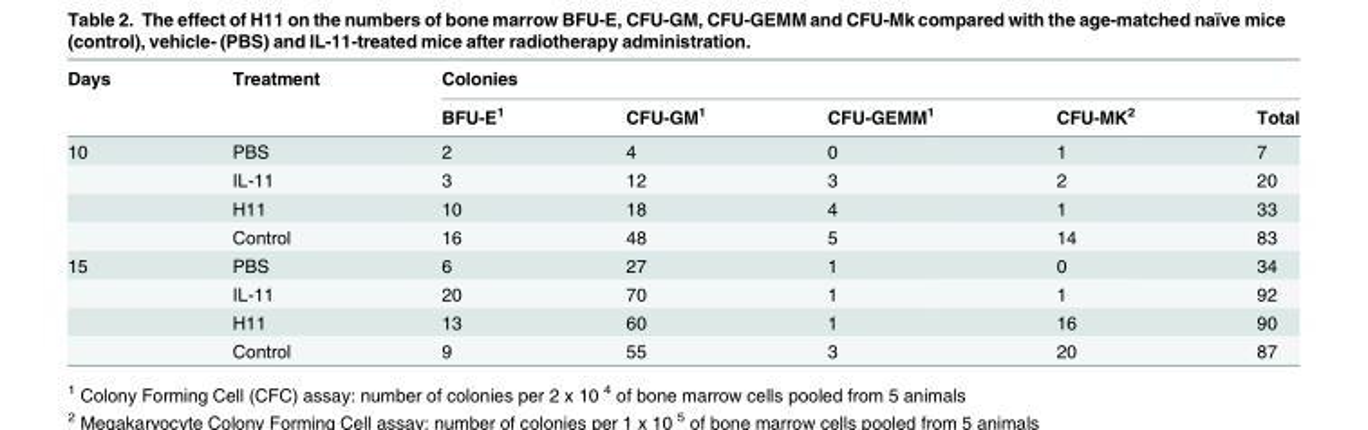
<table><thead><tr><td rowspan="2">Days</td><td rowspan="2">Treatment</td><td colspan="5">Colonies</td></tr><tr><td>BFU-E<sup>1</sup></td><td>CFU-GM<sup>1</sup></td><td>CFU-GEMM<sup>1</sup></td><td>CFU-MK<sup>2</sup></td><td>Total</td></tr></thead><tbody><tr><td rowspan="4">10</td><td>PBS</td><td>2</td><td>4</td><td>0</td><td>1</td><td>7</td></tr><tr><td>IL-11</td><td>3</td><td>12</td><td>3</td><td>2</td><td>20</td></tr><tr><td>H11</td><td>10</td><td>18</td><td>4</td><td>1</td><td>33</td></tr><tr><td>Control</td><td>16</td><td>48</td><td>5</td><td>14</td><td>83</td></tr><tr><td rowspan="4">15</td><td>PBS</td><td>6</td><td>27</td><td>1</td><td>0</td><td>34</td></tr><tr><td>IL-11</td><td>20</td><td>70</td><td>1</td><td>1</td><td>92</td></tr><tr><td>H11</td><td>13</td><td>60</td><td>1</td><td>16</td><td>90</td></tr><tr><td>Control</td><td>9</td><td>55</td><td>3</td><td>20</td><td>87</td></tr></tbody></table>